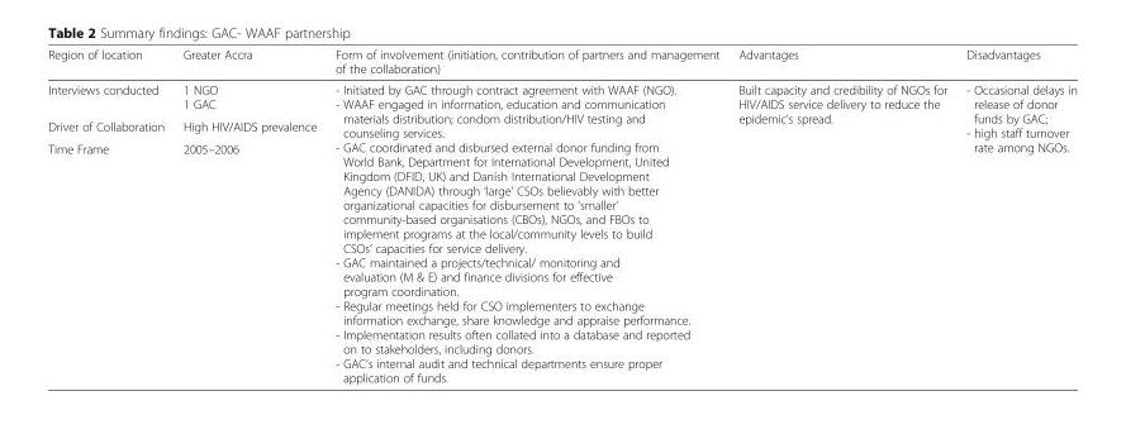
<table><thead><tr><td>Region of location</td><td>Greater Accra</td><td>Form of involvement (initiation, contribution of partners and management of the collaboration)</td><td>Advantages</td><td>Disadvantages</td></tr></thead><tbody><tr><td>Interviews conducted</td><td>1 NGO 1 GAC</td><td rowspan="3">- Initiated by GAC through contract agreement with WAAF (NGO). - WAAF engaged in information, education and communication materials distribution; condom distribution/HIV testing and counseling services. - GAC coordinated and disbursed external donor funding from World Bank, Department for International Development, United Kingdom (DFID, UK) and Danish International Development Agency (DANIDA) through ‘large’ CSOs believably with better organizational capacities for disbursement to ‘smaller’ community-based organisations (CBOs), NGOs, and FBOs to implement programs at the local/community levels to build CSOs’ capacities for service delivery. - GAC maintained a projects/technical/ monitoring and evaluation (M &amp; E) and finance divisions for effective program coordination. - Regular meetings held for CSO implementers to exchange information exchange, share knowledge and appraise performance. - Implementation results often collated into a database and reported on to stakeholders, including donors. - GAC’s internal audit and technical departments ensure proper application of funds.</td><td rowspan="3">Built capacity and credibility of NGOs for HIV/AIDS service delivery to reduce the epidemic’s spread.</td><td rowspan="3">- Occasional delays in release of donor funds by GAC; - high staff turnover rate among NGOs.</td></tr><tr><td>Driver of Collaboration</td><td>High HIV/AIDS prevalence</td></tr><tr><td>Time Frame</td><td>2005–2006</td></tr></tbody></table>